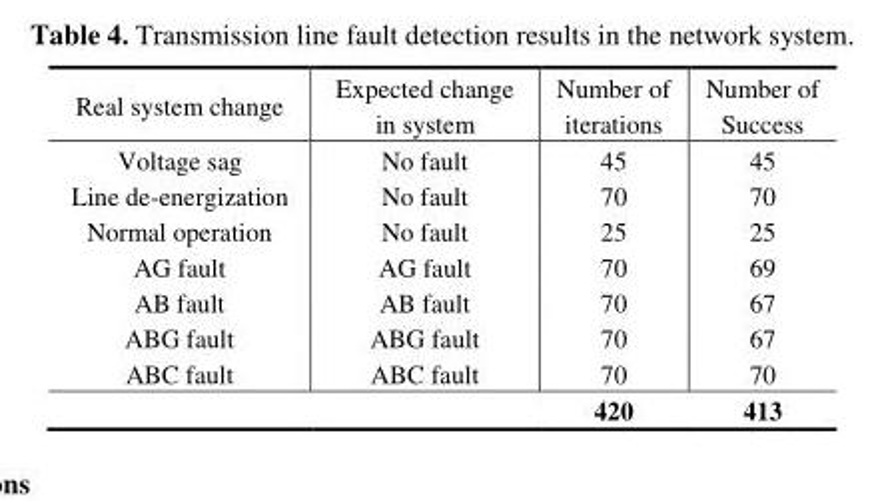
<table><thead><tr><td>Real system change</td><td>Expected change in system</td><td>Number of iterations</td><td>Number of Success</td></tr></thead><tbody><tr><td>Voltage sag</td><td>No fault</td><td>45</td><td>45</td></tr><tr><td>Line de-energization</td><td>No fault</td><td>70</td><td>70</td></tr><tr><td>Normal operation</td><td>No fault</td><td>25</td><td>25</td></tr><tr><td>AG fault</td><td>AG fault</td><td>70</td><td>69</td></tr><tr><td>AB fault</td><td>AB fault</td><td>70</td><td>67</td></tr><tr><td>ABG fault</td><td>ABG fault</td><td>70</td><td>67</td></tr><tr><td rowspan="2">ABC fault</td><td>ABC fault</td><td>70</td><td>70</td></tr><tr><td></td><td>420</td><td>413</td></tr></tbody></table>